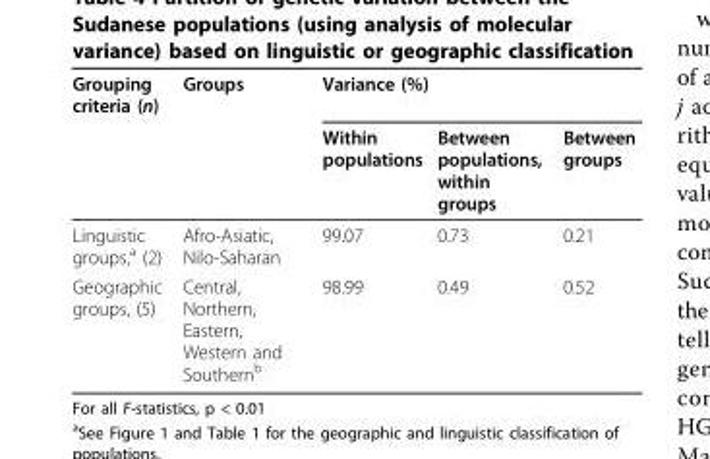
<table><thead><tr><td rowspan="2">Grouping criteria (n)</td><td rowspan="2">Groups</td><td colspan="3">Variance (%)</td></tr><tr><td>Within populations</td><td>Between populations, within groups</td><td>Between groups</td></tr></thead><tbody><tr><td>Linguistic groups,<sup>a</sup> (2)</td><td>Afro-Asiatic, Nilo-Saharan</td><td>99.07</td><td>0.73</td><td>0.21</td></tr><tr><td>Geographic groups, (5)</td><td>Central, Northern, Eastern, Western and Southern<sup>b</sup></td><td>98.99</td><td>0.49</td><td>0.52</td></tr></tbody></table>